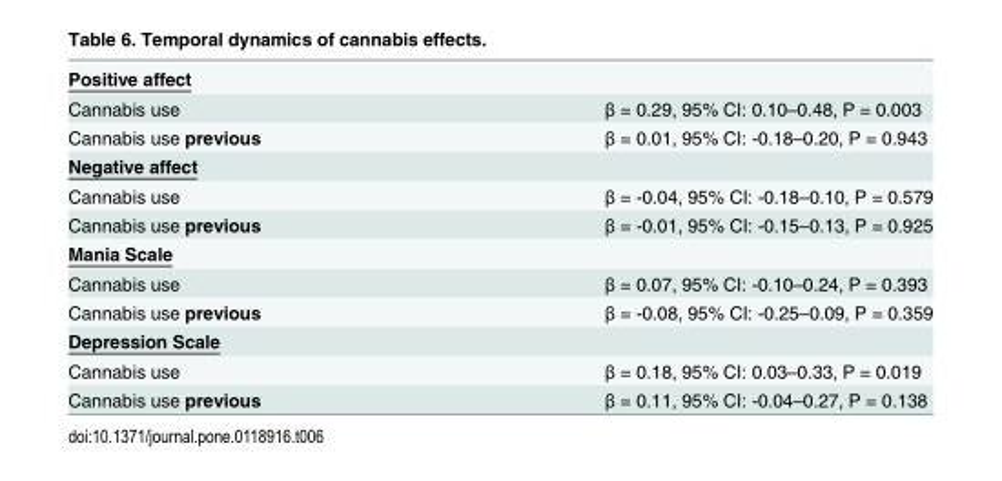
<table><tbody><tr><td colspan="2">Positive affect</td></tr><tr><td>Cannabis use</td><td>β = 0.29, 95% CI: 0.10–0.48, P = 0.003</td></tr><tr><td>Cannabis use previous</td><td>β = 0.01, 95% CI: -0.18–0.20, P = 0.943</td></tr><tr><td colspan="2">Negative affect</td></tr><tr><td>Cannabis use</td><td>β = -0.04, 95% CI: -0.18–0.10, P = 0.579</td></tr><tr><td>Cannabis use previous</td><td>β = -0.01, 95% CI: -0.15–0.13, P = 0.925</td></tr><tr><td colspan="2">Mania Scale</td></tr><tr><td>Cannabis use</td><td>β = 0.07, 95% CI: -0.10–0.24, P = 0.393</td></tr><tr><td>Cannabis use previous</td><td>β = -0.08, 95% CI: -0.25–0.09, P = 0.359</td></tr><tr><td colspan="2">Depression Scale</td></tr><tr><td>Cannabis use</td><td>β = 0.18, 95% CI: 0.03–0.33, P = 0.019</td></tr><tr><td>Cannabis use previous</td><td>β = 0.11, 95% CI: -0.04–0.27, P = 0.138</td></tr></tbody></table>